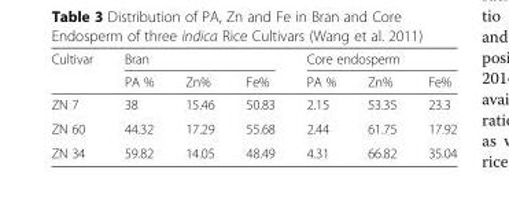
<table><thead><tr><td rowspan="2">Cultivar</td><td colspan="3">Bran</td><td colspan="3">Core endosperm</td></tr><tr><td>PA %</td><td>Zn%</td><td>Fe%</td><td>PA %</td><td>Zn%</td><td>Fe%</td></tr></thead><tbody><tr><td>ZN 7</td><td>38</td><td>15.46</td><td>50.83</td><td>2.15</td><td>53.35</td><td>23.3</td></tr><tr><td>ZN 60</td><td>44.32</td><td>17.29</td><td>55.68</td><td>2.44</td><td>61.75</td><td>17.92</td></tr><tr><td>ZN 34</td><td>59.82</td><td>14.05</td><td>48.49</td><td>4.31</td><td>66.82</td><td>35.04</td></tr></tbody></table>